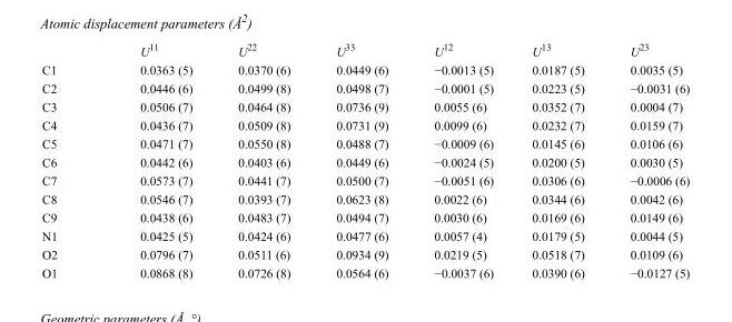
<table><thead><tr><td></td><td>U<sup>11</sup></td><td>U<sup>22</sup></td><td>U<sup>33</sup></td><td>U<sup>12</sup></td><td>U<sup>13</sup></td><td>U<sup>23</sup></td></tr></thead><tbody><tr><td>C1</td><td>0.0363 (5)</td><td>0.0370 (6)</td><td>0.0449 (6)</td><td>−0.0013 (5)</td><td>0.0187 (5)</td><td>0.0035 (5)</td></tr><tr><td>C2</td><td>0.0446 (6)</td><td>0.0499 (8)</td><td>0.0498 (7)</td><td>−0.0001 (5)</td><td>0.0223 (5)</td><td>−0.0031 (6)</td></tr><tr><td>C3</td><td>0.0506 (7)</td><td>0.0464 (8)</td><td>0.0736 (9)</td><td>0.0055 (6)</td><td>0.0352 (7)</td><td>0.0004 (7)</td></tr><tr><td>C4</td><td>0.0436 (7)</td><td>0.0509 (8)</td><td>0.0731 (9)</td><td>0.0099 (6)</td><td>0.0232 (7)</td><td>0.0159 (7)</td></tr><tr><td>C5</td><td>0.0471 (7)</td><td>0.0550 (8)</td><td>0.0488 (7)</td><td>−0.0009 (6)</td><td>0.0145 (6)</td><td>0.0106 (6)</td></tr><tr><td>C6</td><td>0.0442 (6)</td><td>0.0403 (6)</td><td>0.0449 (6)</td><td>−0.0024 (5)</td><td>0.0200 (5)</td><td>0.0030 (5)</td></tr><tr><td>C7</td><td>0.0573 (7)</td><td>0.0441 (7)</td><td>0.0500 (7)</td><td>−0.0051 (6)</td><td>0.0306 (6)</td><td>−0.0006 (6)</td></tr><tr><td>C8</td><td>0.0546 (7)</td><td>0.0393 (7)</td><td>0.0623 (8)</td><td>0.0022 (6)</td><td>0.0344 (6)</td><td>0.0042 (6)</td></tr><tr><td>C9</td><td>0.0438 (6)</td><td>0.0483 (7)</td><td>0.0494 (7)</td><td>0.0030 (6)</td><td>0.0169 (6)</td><td>0.0149 (6)</td></tr><tr><td>N1</td><td>0.0425 (5)</td><td>0.0424 (6)</td><td>0.0477 (6)</td><td>0.0057 (4)</td><td>0.0179 (5)</td><td>0.0044 (5)</td></tr><tr><td>O2</td><td>0.0796 (7)</td><td>0.0511 (6)</td><td>0.0934 (9)</td><td>0.0219 (5)</td><td>0.0518 (7)</td><td>0.0109 (6)</td></tr><tr><td>O1</td><td>0.0868 (8)</td><td>0.0726 (8)</td><td>0.0564 (6)</td><td>−0.0037 (6)</td><td>0.0390 (6)</td><td>−0.0127 (5)</td></tr></tbody></table>